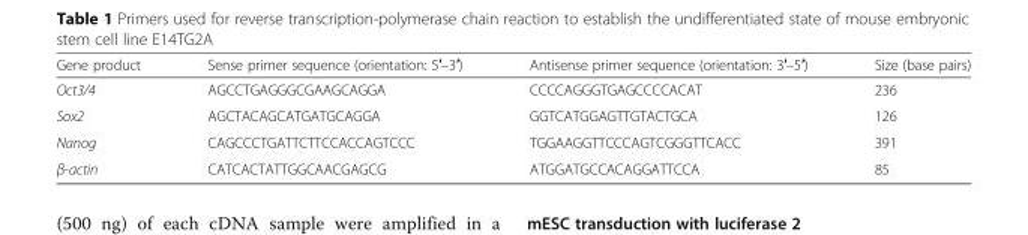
<table><thead><tr><td>Gene product</td><td>Sense primer sequence (orientation: 5′–3′)</td><td>Antisense primer sequence (orientation: 3′–5′)</td><td>Size (base pairs)</td></tr></thead><tbody><tr><td>Oct3/4</td><td>AGCCTGAGGGCGAAGCAGGA</td><td>CCCCAGGGTGAGCCCCACAT</td><td>236</td></tr><tr><td>Sox2</td><td>AGCTACAGCATGATGCAGGA</td><td>GGTCATGGAGTTGTACTGCA</td><td>126</td></tr><tr><td>Nanog</td><td>CAGCCCTGATTCTTCCACCAGTCCC</td><td>TGGAAGGTTCCCAGTCGGGTTCACC</td><td>391</td></tr><tr><td>β-actin</td><td>CATCACTATTGGCAACGAGCG</td><td>ATGGATGCCACAGGATTCCA</td><td>85</td></tr></tbody></table>